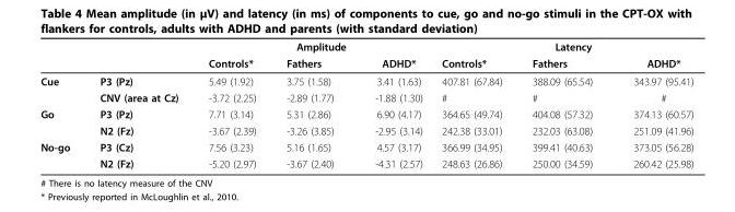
<table><thead><tr><td rowspan="2"></td><td rowspan="2"></td><td colspan="3">Amplitude</td><td colspan="3">Latency</td></tr><tr><td>Controls*</td><td>Fathers</td><td>ADHD*</td><td>Controls*</td><td>Fathers</td><td>ADHD*</td></tr></thead><tbody><tr><td rowspan="2">Cue</td><td>P3 (Pz)</td><td>5.49 (1.92)</td><td>3.75 (1.58)</td><td>3.41 (1.63)</td><td>407.81 (67.84)</td><td>388.09 (65.54)</td><td>343.97 (95.41)</td></tr><tr><td>CNV (area at Cz)</td><td>-3.72 (2.25)</td><td>-2.89 (1.77)</td><td>-1.88 (1.30)</td><td>#</td><td>#</td><td>#</td></tr><tr><td rowspan="2">Go</td><td>P3 (Pz)</td><td>7.71 (3.14)</td><td>5.31 (2.86)</td><td>6.90 (4.17)</td><td>364.65 (49.74)</td><td>404.08 (57.32)</td><td>374.13 (60.57)</td></tr><tr><td>N2 (Fz)</td><td>-3.67 (2.39)</td><td>-3.26 (3.85)</td><td>-2.95 (3.14)</td><td>242.38 (33.01)</td><td>232.03 (63.08)</td><td>251.09 (41.96)</td></tr><tr><td rowspan="2">No-go</td><td>P3 (Cz)</td><td>7.56 (3.23)</td><td>5.16 (1.65)</td><td>4.57 (3.17)</td><td>366.99 (34.95)</td><td>399.41 (40.63)</td><td>373.05 (56.28)</td></tr><tr><td>N2 (Fz)</td><td>-5.20 (2.97)</td><td>-3.67 (2.40)</td><td>-4.31 (2.57)</td><td>248.63 (26.86)</td><td>250.00 (34.59)</td><td>260.42 (25.98)</td></tr></tbody></table>